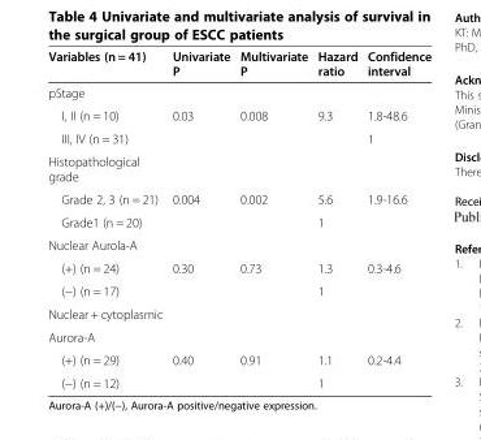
<table><thead><tr><td>Variables (n = 41)</td><td>Univariate P</td><td>Multivariate P</td><td>Hazard ratio</td><td>Confidence interval</td></tr></thead><tbody><tr><td colspan="5">pStage</td></tr><tr><td>I, II (n = 10)</td><td>0.03</td><td>0.008</td><td>9.3</td><td>1.8-48.6</td></tr><tr><td>III, IV (n = 31)</td><td></td><td></td><td></td><td>1</td></tr><tr><td colspan="5">Histopathological grade</td></tr><tr><td>Grade 2, 3 (n = 21)</td><td>0.004</td><td>0.002</td><td>5.6</td><td>1.9-16.6</td></tr><tr><td>Grade1 (n = 20)</td><td></td><td></td><td>1</td><td></td></tr><tr><td colspan="5">Nuclear Aurola-A</td></tr><tr><td>(+) (n = 24)</td><td>0.30</td><td>0.73</td><td>1.3</td><td>0.3-4.6</td></tr><tr><td>(−) (n = 17)</td><td></td><td></td><td>1</td><td></td></tr><tr><td colspan="5">Nuclear + cytoplasmic</td></tr><tr><td colspan="5">Aurora-A</td></tr><tr><td>(+) (n = 29)</td><td>0.40</td><td>0.91</td><td>1.1</td><td>0.2-4.4</td></tr><tr><td>(−) (n = 12)</td><td></td><td></td><td>1</td><td></td></tr></tbody></table>